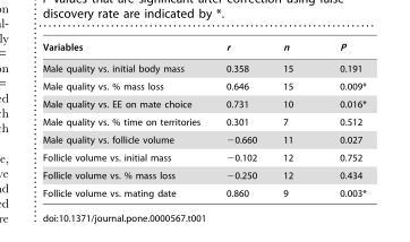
<table><thead><tr><td>Variables</td><td>r</td><td>n</td><td>P</td></tr></thead><tbody><tr><td>Male quality vs. initial body mass</td><td>0.358</td><td>15</td><td>0.191</td></tr><tr><td>Male quality vs. % mass loss</td><td>0.646</td><td>15</td><td>0.009*</td></tr><tr><td>Male quality vs. EE on mate choice</td><td>0.731</td><td>10</td><td>0.016*</td></tr><tr><td>Male quality vs. % time on territories</td><td>0.301</td><td>7</td><td>0.512</td></tr><tr><td>Male quality vs. follicle volume</td><td>−0.660</td><td>11</td><td>0.027</td></tr><tr><td>Follicle volume vs. initial mass</td><td>−0.102</td><td>12</td><td>0.752</td></tr><tr><td>Follicle volume vs. % mass loss</td><td>−0.250</td><td>12</td><td>0.434</td></tr><tr><td>Follicle volume vs. mating date</td><td>0.860</td><td>9</td><td>0.003*</td></tr></tbody></table>